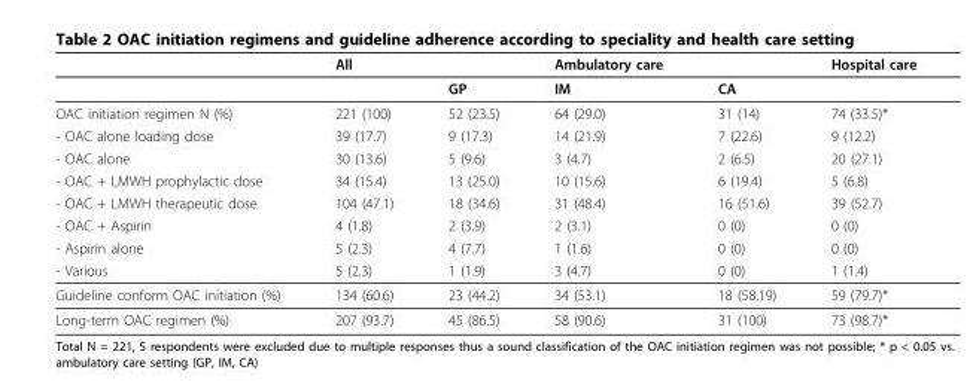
<table><thead><tr><td></td><td>All</td><td></td><td>Ambulatory care</td><td></td><td>Hospital care</td></tr></thead><tbody><tr><td></td><td></td><td>GP</td><td>IM</td><td>CA</td><td></td></tr><tr><td>OAC initiation regimen N (%)</td><td>221 (100)</td><td>52 (23.5)</td><td>64 (29.0)</td><td>31 (14)</td><td>74 (33.5)*</td></tr><tr><td>- OAC alone loading dose</td><td>39 (17.7)</td><td>9 (17.3)</td><td>14 (21.9)</td><td>7 (22.6)</td><td>9 (12.2)</td></tr><tr><td>- OAC alone</td><td>30 (13.6)</td><td>5 (9.6)</td><td>3 (4.7)</td><td>2 (6.5)</td><td>20 (27.1)</td></tr><tr><td>- OAC + LMWH prophylactic dose</td><td>34 (15.4)</td><td>13 (25.0)</td><td>10 (15.6)</td><td>6 (19.4)</td><td>5 (6.8)</td></tr><tr><td>- OAC + LMWH therapeutic dose</td><td>104 (47.1)</td><td>18 (34.6)</td><td>31 (48.4)</td><td>16 (51.6)</td><td>39 (52.7)</td></tr><tr><td>- OAC + Aspirin</td><td>4 (1.8)</td><td>2 (3.9)</td><td>2 (3.1)</td><td>0 (0)</td><td>0 (0)</td></tr><tr><td>- Aspirin alone</td><td>5 (2.3)</td><td>4 (7.7)</td><td>1 (1.6)</td><td>0 (0)</td><td>0 (0)</td></tr><tr><td>- Various</td><td>5 (2.3)</td><td>1 (1.9)</td><td>3 (4.7)</td><td>0 (0)</td><td>1 (1.4)</td></tr><tr><td>Guideline conform OAC initiation (%)</td><td>134 (60.6)</td><td>23 (44.2)</td><td>34 (53.1)</td><td>18 (58.19)</td><td>59 (79.7)*</td></tr><tr><td>Long-term OAC regimen (%)</td><td>207 (93.7)</td><td>45 (86.5)</td><td>58 (90.6)</td><td>31 (100)</td><td>73 (98.7)*</td></tr></tbody></table>